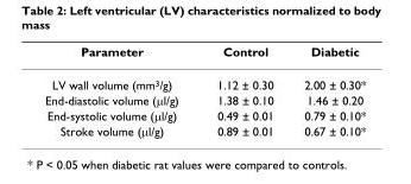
<table><thead><tr><td>Parameter</td><td>Control</td><td>Diabetic</td></tr></thead><tbody><tr><td>LV wall volume (mm<sup>3</sup>/g)</td><td>1.12 ± 0.30</td><td>2.00 ± 0.30*</td></tr><tr><td>End-diastolic volume (µl/g)</td><td>1.38 ± 0.10</td><td>1.46 ± 0.20</td></tr><tr><td>End-systolic volume (µl/g)</td><td>0.49 ± 0.01</td><td>0.79 ± 0.10*</td></tr><tr><td>Stroke volume (µl/g)</td><td>0.89 ± 0.01</td><td>0.67 ± 0.10*</td></tr></tbody></table>